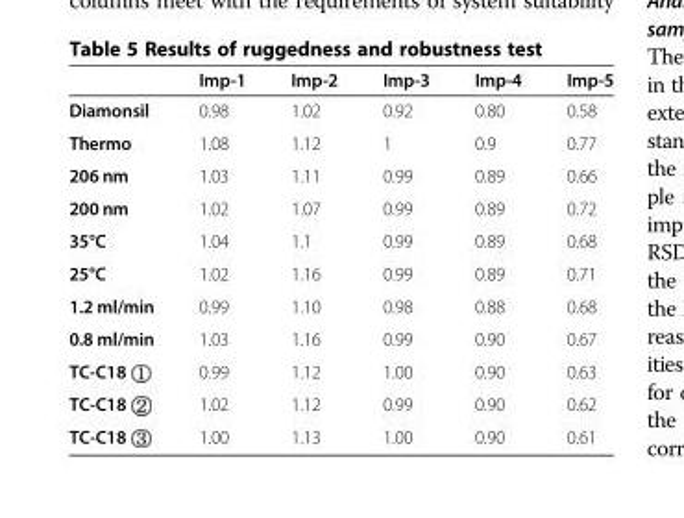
<table><thead><tr><td></td><td>Imp-1</td><td>Imp-2</td><td>Imp-3</td><td>Imp-4</td><td>Imp-5</td></tr></thead><tbody><tr><td>Diamonsil</td><td>0.98</td><td>1.02</td><td>0.92</td><td>0.80</td><td>0.58</td></tr><tr><td>Thermo</td><td>1.08</td><td>1.12</td><td>1</td><td>0.9</td><td>0.77</td></tr><tr><td>206 nm</td><td>1.03</td><td>1.11</td><td>0.99</td><td>0.89</td><td>0.66</td></tr><tr><td>200 nm</td><td>1.02</td><td>1.07</td><td>0.99</td><td>0.89</td><td>0.72</td></tr><tr><td>35°C</td><td>1.04</td><td>1.1</td><td>0.99</td><td>0.89</td><td>0.68</td></tr><tr><td>25°C</td><td>1.02</td><td>1.16</td><td>0.99</td><td>0.89</td><td>0.71</td></tr><tr><td>1.2 ml/min</td><td>0.99</td><td>1.10</td><td>0.98</td><td>0.88</td><td>0.68</td></tr><tr><td>0.8 ml/min</td><td>1.03</td><td>1.16</td><td>0.99</td><td>0.90</td><td>0.67</td></tr><tr><td>TC-C18</td><td>0.99</td><td>1.12</td><td>1.00</td><td>0.90</td><td>0.63</td></tr><tr><td>TC-C18</td><td>1.02</td><td>1.12</td><td>0.99</td><td>0.90</td><td>0.62</td></tr><tr><td>TC-C18</td><td>1.00</td><td>1.13</td><td>1.00</td><td>0.90</td><td>0.61</td></tr></tbody></table>